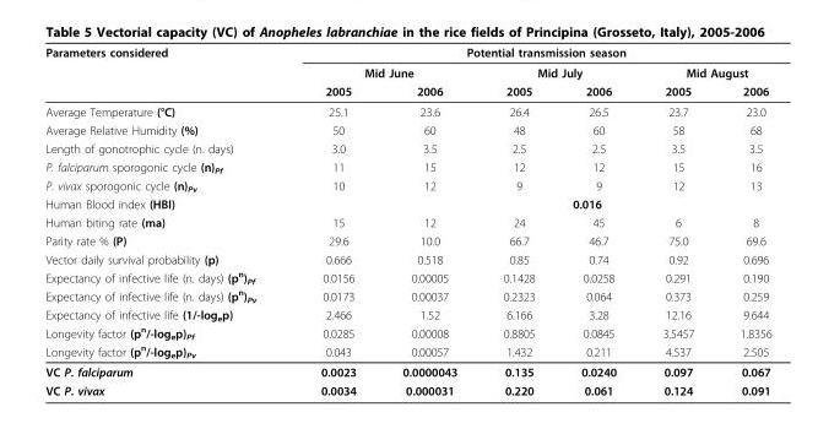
<table><thead><tr><td rowspan="3">Parameters considered</td><td colspan="6">Potential transmission season</td></tr><tr><td colspan="2">Mid June</td><td colspan="2">Mid July</td><td colspan="2">Mid August</td></tr><tr><td>2005</td><td>2006</td><td>2005</td><td>2006</td><td>2005</td><td>2006</td></tr></thead><tbody><tr><td>Average Temperature (°C)</td><td>25.1</td><td>23.6</td><td>26.4</td><td>26.5</td><td>23.7</td><td>23.0</td></tr><tr><td>Average Relative Humidity (%)</td><td>50</td><td>60</td><td>48</td><td>60</td><td>58</td><td>68</td></tr><tr><td>Length of gonotrophic cycle (n. days)</td><td>3.0</td><td>3.5</td><td>2.5</td><td>2.5</td><td>3.5</td><td>3.5</td></tr><tr><td>P. falciparum sporogonic cycle (n)<sub>Pf</sub></td><td>11</td><td>15</td><td>12</td><td>12</td><td>15</td><td>16</td></tr><tr><td>P. vivax sporogonic cycle (n)<sub>Pv</sub></td><td>10</td><td>12</td><td>9</td><td>9</td><td>12</td><td>13</td></tr><tr><td>Human Blood index (HBI)</td><td></td><td colspan="5">0.016</td></tr><tr><td>Human biting rate (ma)</td><td>15</td><td>12</td><td>24</td><td>45</td><td>6</td><td>8</td></tr><tr><td>Parity rate % (P)</td><td>29.6</td><td>10.0</td><td>66.7</td><td>46.7</td><td>75.0</td><td>69.6</td></tr><tr><td>Vector daily survival probability (p)</td><td>0.666</td><td>0.518</td><td>0.85</td><td>0.74</td><td>0.92</td><td>0.696</td></tr><tr><td>Expectancy of infective life (n. days) (p<sup>n</sup>)<sub>Pf</sub></td><td>0.0156</td><td>0.00005</td><td>0.1428</td><td>0.0258</td><td>0.291</td><td>0.190</td></tr><tr><td>Expectancy of infective life (n. days) (p<sup>n</sup>)<sub>Pv</sub></td><td>0.0173</td><td>0.00037</td><td>0.2323</td><td>0.064</td><td>0.373</td><td>0.259</td></tr><tr><td>Expectancy of infective life (1/-log<sub>e</sub>p)</td><td>2.466</td><td>1.52</td><td>6.166</td><td>3.28</td><td>12.16</td><td>9.644</td></tr><tr><td>Longevity factor (p<sup>n</sup>/-log<sub>e</sub>p)<sub>Pf</sub></td><td>0.0285</td><td>0.00008</td><td>0.8805</td><td>0.0845</td><td>3.5457</td><td>1.8356</td></tr><tr><td>Longevity factor (p<sup>n</sup>/-log<sub>e</sub>p)<sub>Pv</sub></td><td>0.043</td><td>0.00057</td><td>1.432</td><td>0.211</td><td>4.537</td><td>2.505</td></tr><tr><td>VC P. falciparum</td><td>0.0023</td><td>0.0000043</td><td>0.135</td><td>0.0240</td><td>0.097</td><td>0.067</td></tr><tr><td>VC P. vivax</td><td>0.0034</td><td>0.000031</td><td>0.220</td><td>0.061</td><td>0.124</td><td>0.091</td></tr></tbody></table>